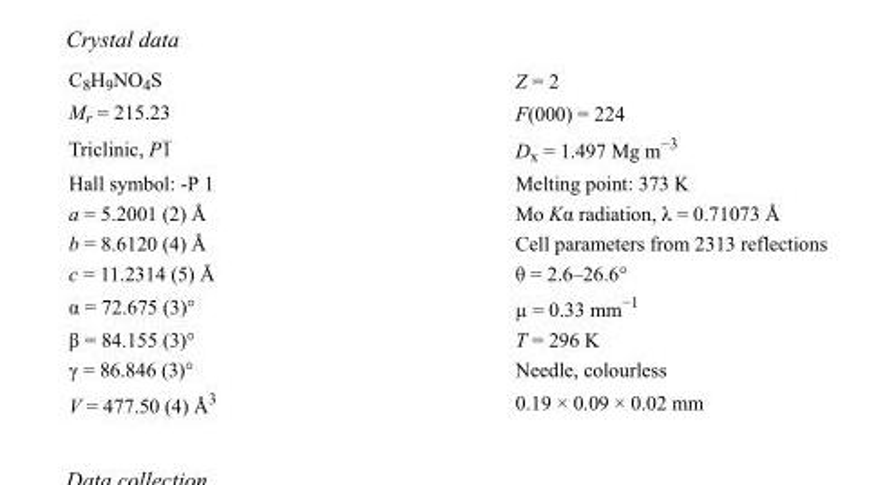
<table><tbody><tr><td>C<sub>8</sub>H<sub>9</sub>NO<sub>4</sub>S</td><td>Z = 2</td></tr><tr><td>M<sub>r</sub> = 215.23</td><td>F(000) = 224</td></tr><tr><td>Triclinic, P1</td><td>D<sub>x</sub> = 1.497 Mg m<sup>−3</sup></td></tr><tr><td>Hall symbol: -P 1</td><td>Melting point: 373 K</td></tr><tr><td>a = 5.2001 (2) Å</td><td>Mo Kα radiation, λ = 0.71073 Å</td></tr><tr><td>b = 8.6120 (4) Å</td><td>Cell parameters from 2313 reflections</td></tr><tr><td>c = 11.2314 (5) Å</td><td>θ = 2.6–26.6°</td></tr><tr><td>α = 72.675 (3)°</td><td>µ = 0.33 mm<sup>−1</sup></td></tr><tr><td>β = 84.155 (3)°</td><td>T = 296 K</td></tr><tr><td>γ = 86.846 (3)°</td><td>Needle, colourless</td></tr><tr><td>V = 477.50 (4) Å<sup>3</sup></td><td>0.19 × 0.09 × 0.02 mm</td></tr></tbody></table>